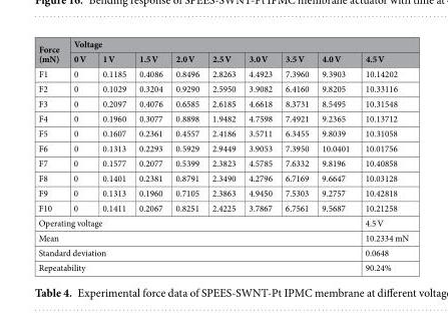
<table><thead><tr><td rowspan="2">Force (mN)</td><td colspan="9">Voltage</td></tr><tr><td>0 V</td><td>1 V</td><td>1.5 V</td><td>2.0 V</td><td>2.5 V</td><td>3.0 V</td><td>3.5 V</td><td>4.0 V</td><td>4.5 V</td></tr></thead><tbody><tr><td>F1</td><td>0</td><td>0.1185</td><td>0.4086</td><td>0.8496</td><td>2.8263</td><td>4.4923</td><td>7.3960</td><td>9.3903</td><td>10.14202</td></tr><tr><td>F2</td><td>0</td><td>0.1029</td><td>0.3204</td><td>0.9290</td><td>2.5950</td><td>3.9082</td><td>6.4160</td><td>9.8205</td><td>10.33116</td></tr><tr><td>F3</td><td>0</td><td>0.2097</td><td>0.4076</td><td>0.6585</td><td>2.6185</td><td>4.6618</td><td>8.3731</td><td>8.5495</td><td>10.31548</td></tr><tr><td>F4</td><td>0</td><td>0.1960</td><td>0.3077</td><td>0.8898</td><td>1.9482</td><td>4.7598</td><td>7.4921</td><td>9.2365</td><td>10.13712</td></tr><tr><td>F5</td><td>0</td><td>0.1607</td><td>0.2361</td><td>0.4557</td><td>2.4186</td><td>3.5711</td><td>6.3455</td><td>9.8039</td><td>10.31058</td></tr><tr><td>F6</td><td>0</td><td>0.1313</td><td>0.2293</td><td>0.5929</td><td>2.9449</td><td>3.9053</td><td>7.3950</td><td>10.0401</td><td>10.01756</td></tr><tr><td>F7</td><td>0</td><td>0.1577</td><td>0.2077</td><td>0.5399</td><td>2.3823</td><td>4.5785</td><td>7.6332</td><td>9.8196</td><td>10.40858</td></tr><tr><td>F8</td><td>0</td><td>0.1401</td><td>0.2381</td><td>0.8791</td><td>2.3490</td><td>4.2796</td><td>6.7169</td><td>9.6647</td><td>10.03128</td></tr><tr><td>F9</td><td>0</td><td>0.1313</td><td>0.1960</td><td>0.7105</td><td>2.3863</td><td>4.9450</td><td>7.5303</td><td>9.2757</td><td>10.42818</td></tr><tr><td>F10</td><td>0</td><td>0.1411</td><td>0.2067</td><td>0.8251</td><td>2.4225</td><td>3.7867</td><td>6.7561</td><td>9.5687</td><td>10.21258</td></tr><tr><td colspan="9">Operating voltage</td><td>4.5 V</td></tr><tr><td colspan="9">Mean</td><td>10.2334 mN</td></tr><tr><td colspan="9">Standard deviation</td><td>0.0648</td></tr><tr><td colspan="9">Repeatability</td><td>90.24%</td></tr></tbody></table>